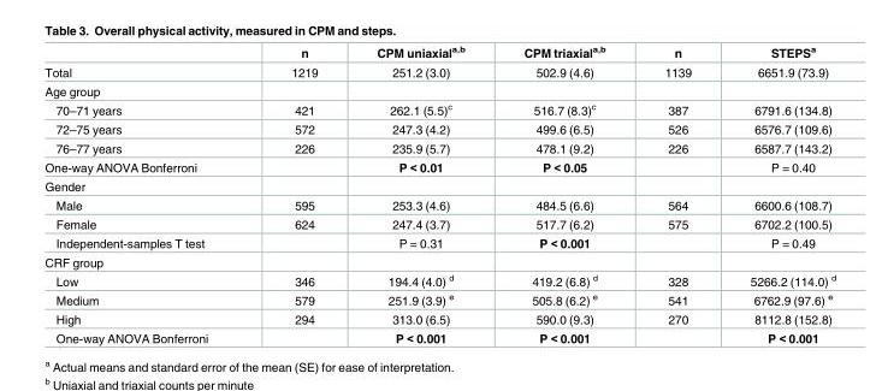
<table><thead><tr><td></td><td>n</td><td>CPM uniaxial<sup>a,b</sup></td><td>CPM triaxial<sup>a,b</sup></td><td>n</td><td>STEPS<sup>a</sup></td></tr></thead><tbody><tr><td>Total</td><td>1219</td><td>251.2 (3.0)</td><td>502.9 (4.6)</td><td>1139</td><td>6651.9 (73.9)</td></tr><tr><td colspan="6">Age group</td></tr><tr><td>70–71 years</td><td>421</td><td>262.1 (5.5)<sup>c</sup></td><td>516.7 (8.3)<sup>c</sup></td><td>387</td><td>6791.6 (134.8)</td></tr><tr><td>72–75 years</td><td>572</td><td>247.3 (4.2)</td><td>499.6 (6.5)</td><td>526</td><td>6576.7 (109.6)</td></tr><tr><td>76–77 years</td><td>226</td><td>235.9 (5.7)</td><td>478.1 (9.2)</td><td>226</td><td>6587.7 (143.2)</td></tr><tr><td>One-way ANOVA Bonferroni</td><td></td><td>P &lt; 0.01</td><td>P &lt; 0.05</td><td></td><td>P = 0.40</td></tr><tr><td colspan="6">Gender</td></tr><tr><td>Male</td><td>595</td><td>253.3 (4.6)</td><td>484.5 (6.6)</td><td>564</td><td>6600.6 (108.7)</td></tr><tr><td>Female</td><td>624</td><td>247.4 (3.7)</td><td>517.7 (6.2)</td><td>575</td><td>6702.2 (100.5)</td></tr><tr><td>Independent-samples T test</td><td></td><td>P = 0.31</td><td>P &lt; 0.001</td><td></td><td>P = 0.49</td></tr><tr><td colspan="6">CRF group</td></tr><tr><td>Low</td><td>346</td><td>194.4 (4.0) <sup>d</sup></td><td>419.2 (6.8) <sup>d</sup></td><td>328</td><td>5266.2 (114.0) <sup>d</sup></td></tr><tr><td>Medium</td><td>579</td><td>251.9 (3.9) <sup>e</sup></td><td>505.8 (6.2) <sup>e</sup></td><td>541</td><td>6762.9 (97.6) <sup>e</sup></td></tr><tr><td>High</td><td>294</td><td>313.0 (6.5)</td><td>590.0 (9.3)</td><td>270</td><td>8112.8 (152.8)</td></tr><tr><td>One-way ANOVA Bonferroni</td><td></td><td>P &lt; 0.001</td><td>P &lt; 0.001</td><td></td><td>P &lt; 0.001</td></tr></tbody></table>